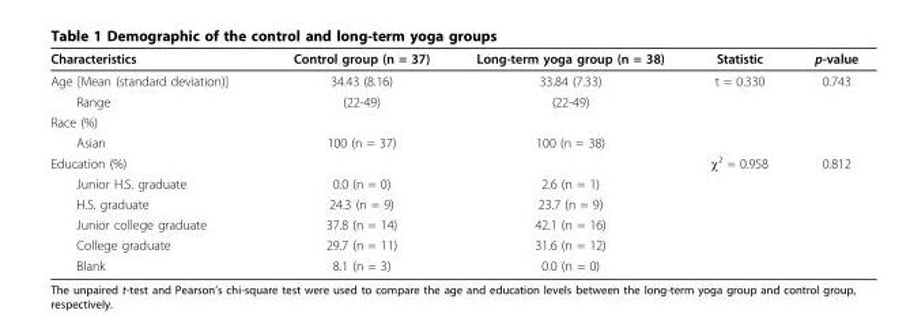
<table><thead><tr><td>Characteristics</td><td>Control group (n = 37)</td><td>Long-term yoga group (n = 38)</td><td>Statistic</td><td>p-value</td></tr></thead><tbody><tr><td>Age [Mean (standard deviation)]</td><td>34.43 (8.16)</td><td>33.84 (7.33)</td><td>t = 0.330</td><td>0.743</td></tr><tr><td>Range</td><td>(22-49)</td><td>(22-49)</td><td></td><td></td></tr><tr><td colspan="5">Race (%)</td></tr><tr><td>Asian</td><td>100 (n = 37)</td><td>100 (n = 38)</td><td></td><td></td></tr><tr><td>Education (%)</td><td></td><td></td><td>χ² = 0.958</td><td>0.812</td></tr><tr><td>Junior H.S. graduate</td><td>0.0 (n = 0)</td><td>2.6 (n = 1)</td><td></td><td></td></tr><tr><td>H.S. graduate</td><td>24.3 (n = 9)</td><td>23.7 (n = 9)</td><td></td><td></td></tr><tr><td>Junior college graduate</td><td>37.8 (n = 14)</td><td>42.1 (n = 16)</td><td></td><td></td></tr><tr><td>College graduate</td><td>29.7 (n = 11)</td><td>31.6 (n = 12)</td><td></td><td></td></tr><tr><td>Blank</td><td>8.1 (n = 3)</td><td>0.0 (n = 0)</td><td></td><td></td></tr></tbody></table>